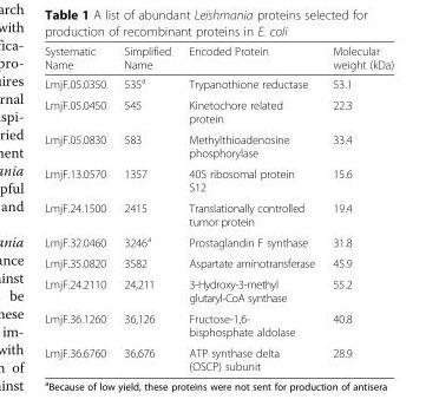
<table><thead><tr><td>Systematic Name</td><td>Simplified Name</td><td>Encoded Protein</td><td>Molecular weight (kDa)</td></tr></thead><tbody><tr><td>LmjF.05.0350</td><td>535<sup>a</sup></td><td>Trypanothione reductase</td><td>53.1</td></tr><tr><td>LmjF.05.0450</td><td>545</td><td>Kinetochore related protein</td><td>22.3</td></tr><tr><td>LmjF.05.0830</td><td>583</td><td>Methylthioadenosine phosphorylase</td><td>33.4</td></tr><tr><td>LmjF.13.0570</td><td>1357</td><td>40S ribosomal protein S12</td><td>15.6</td></tr><tr><td>LmjF.24.1500</td><td>2415</td><td>Translationally controlled tumor protein</td><td>19.4</td></tr><tr><td>LmjF.32.0460</td><td>3246<sup>a</sup></td><td>Prostaglandin F synthase</td><td>31.8</td></tr><tr><td>LmjF.35.0820</td><td>3582</td><td>Aspartate aminotransferase</td><td>45.9</td></tr><tr><td>LmjF.24.2110</td><td>24,211</td><td>3-Hydroxy-3-methyl glutaryl-CoA synthase</td><td>55.2</td></tr><tr><td>LmjF.36.1260</td><td>36,126</td><td>Fructose-1,6- bisphosphate aldolase</td><td>40.8</td></tr><tr><td>LmjF.36.6760</td><td>36,676</td><td>ATP synthase delta (OSCP) subunit</td><td>28.9</td></tr></tbody></table>